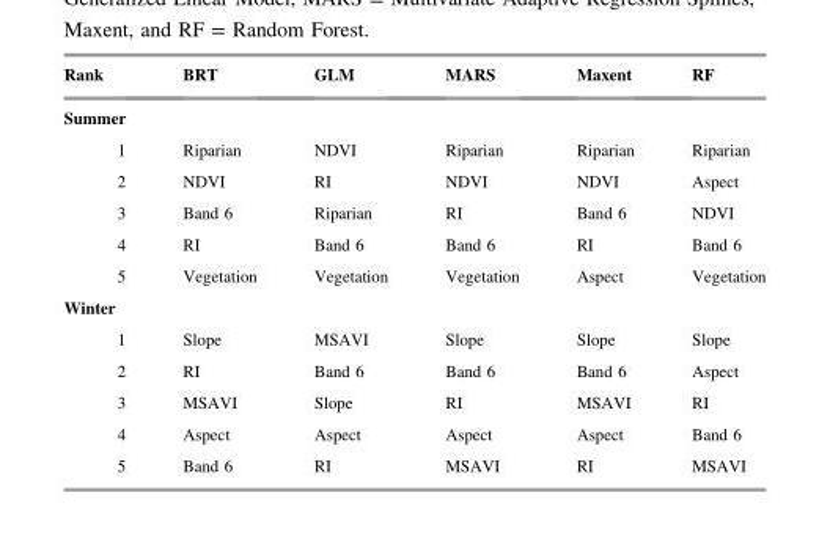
<table><thead><tr><td>Rank</td><td>BRT</td><td>GLM</td><td>MARS</td><td>Maxent</td><td>RF</td></tr></thead><tbody><tr><td colspan="6">Summer</td></tr><tr><td>1</td><td>Riparian</td><td>NDVI</td><td>Riparian</td><td>Riparian</td><td>Riparian</td></tr><tr><td>2</td><td>NDVI</td><td>RI</td><td>NDVI</td><td>NDVI</td><td>Aspect</td></tr><tr><td>3</td><td>Band 6</td><td>Riparian</td><td>RI</td><td>Band 6</td><td>NDVI</td></tr><tr><td>4</td><td>RI</td><td>Band 6</td><td>Band 6</td><td>RI</td><td>Band 6</td></tr><tr><td>5</td><td>Vegetation</td><td>Vegetation</td><td>Vegetation</td><td>Aspect</td><td>Vegetation</td></tr><tr><td colspan="6">Winter</td></tr><tr><td>1</td><td>Slope</td><td>MSAVI</td><td>Slope</td><td>Slope</td><td>Slope</td></tr><tr><td>2</td><td>RI</td><td>Band 6</td><td>Band 6</td><td>Band 6</td><td>Aspect</td></tr><tr><td>3</td><td>MSAVI</td><td>Slope</td><td>RI</td><td>MSAVI</td><td>RI</td></tr><tr><td>4</td><td>Aspect</td><td>Aspect</td><td>Aspect</td><td>Aspect</td><td>Band 6</td></tr><tr><td>5</td><td>Band 6</td><td>RI</td><td>MSAVI</td><td>RI</td><td>MSAVI</td></tr></tbody></table>